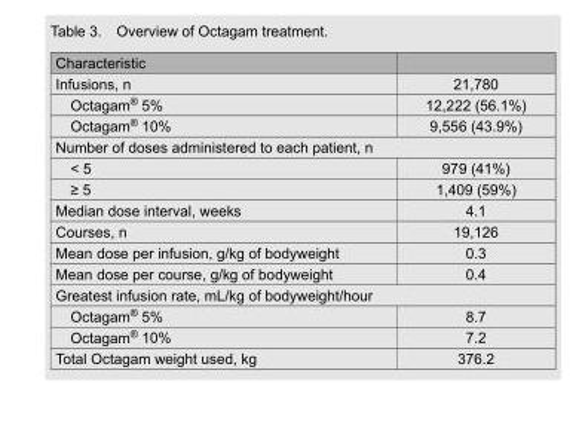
<table><thead><tr><td>Characteristic</td><td></td></tr></thead><tbody><tr><td>Infusions, n</td><td>21,780</td></tr><tr><td>Octagam<sup>®</sup> 5%</td><td>12,222 (56.1%)</td></tr><tr><td>Octagam<sup>®</sup> 10%</td><td>9,556 (43.9%)</td></tr><tr><td colspan="2">Number of doses administered to each patient, n</td></tr><tr><td>&lt; 5</td><td>979 (41%)</td></tr><tr><td>≥ 5</td><td>1,409 (59%)</td></tr><tr><td>Median dose interval, weeks</td><td>4.1</td></tr><tr><td>Courses, n</td><td>19,126</td></tr><tr><td>Mean dose per infusion, g/kg of bodyweight</td><td>0.3</td></tr><tr><td>Mean dose per course, g/kg of bodyweight</td><td>0.4</td></tr><tr><td colspan="2">Greatest infusion rate, mL/kg of bodyweight/hour</td></tr><tr><td>Octagam<sup>®</sup> 5%</td><td>8.7</td></tr><tr><td>Octagam<sup>®</sup> 10%</td><td>7.2</td></tr><tr><td>Total Octagam weight used, kg</td><td>376.2</td></tr></tbody></table>